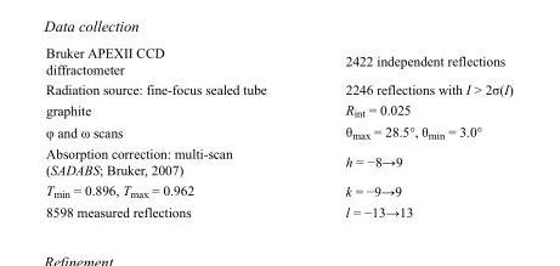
<table><tbody><tr><td>Bruker APEXII CCD diffractometer</td><td>2422 independent reflections</td></tr><tr><td>Radiation source: fine-focus sealed tube</td><td>2246 reflections with I &gt; 2σ(I)</td></tr><tr><td>graphite</td><td>R<sub>int</sub> = 0.025</td></tr><tr><td>φ and ω scans</td><td>θ<sub>max</sub> = 28.5°, θ<sub>min</sub> = 3.0°</td></tr><tr><td>Absorption correction: multi-scan (SADABS; Bruker, 2007)</td><td>h = −8→9</td></tr><tr><td>T<sub>min</sub> = 0.896, T<sub>max</sub> = 0.962</td><td>k = −9→9</td></tr><tr><td>8598 measured reflections</td><td>l = −13→13</td></tr></tbody></table>